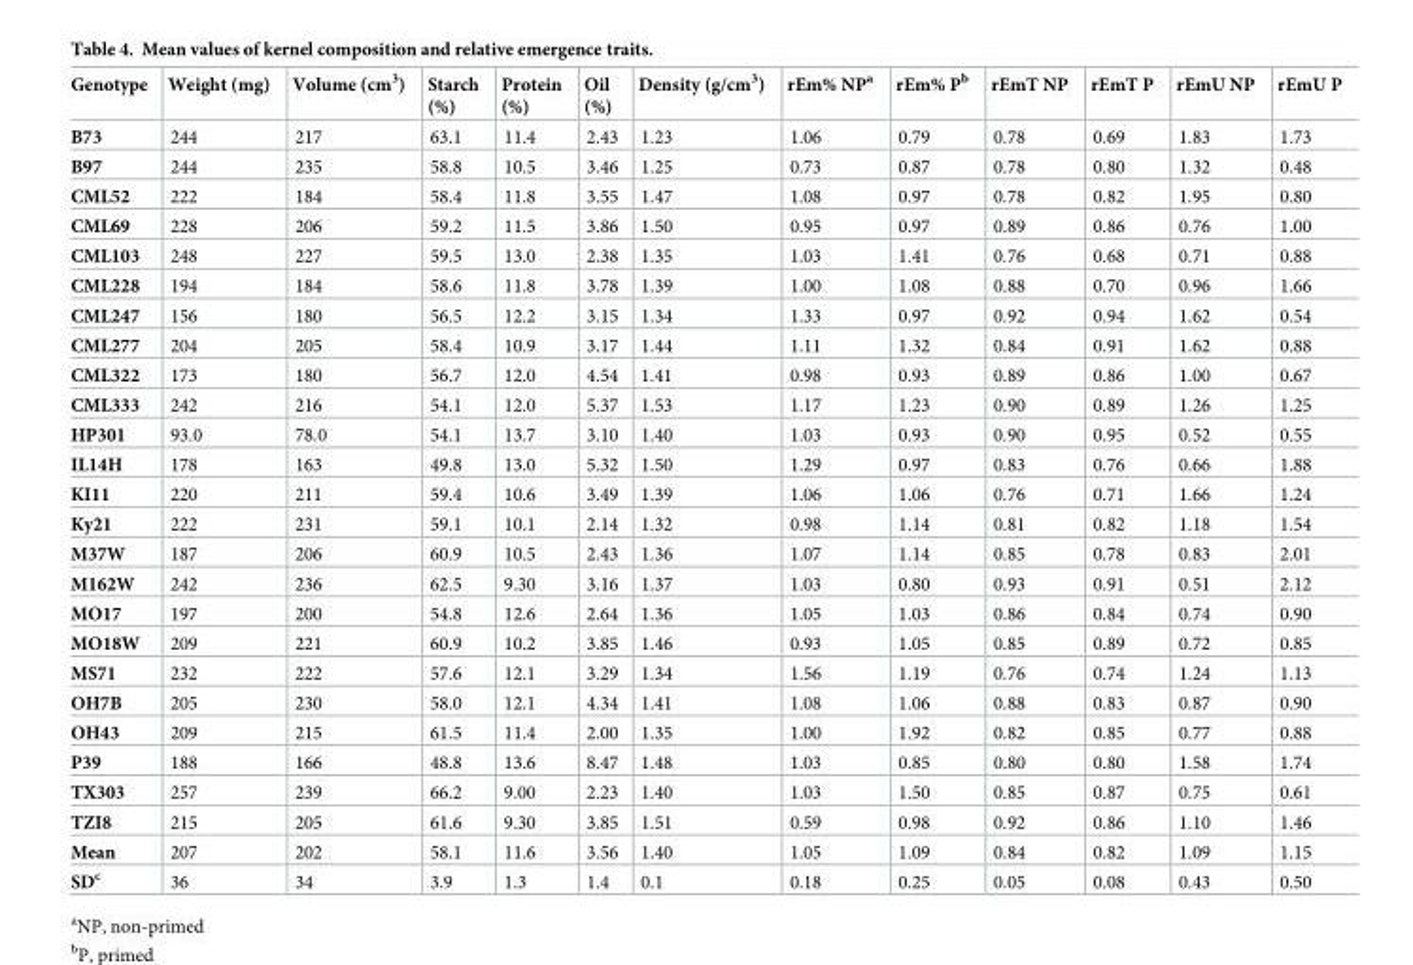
<table><thead><tr><td>Genotype</td><td>Weight (mg)</td><td>Volume (cm<sup>3</sup>)</td><td>Starch (%)</td><td>Protein (%)</td><td>Oil (%)</td><td>Density (g/cm<sup>3</sup>)</td><td>rEm% NP<sup>a</sup></td><td>rEm% P<sup>b</sup></td><td>rEmT NP</td><td>rEmT P</td><td>rEmU NP</td><td>rEmU P</td></tr></thead><tbody><tr><td>B73</td><td>244</td><td>217</td><td>63.1</td><td>11.4</td><td>2.43</td><td>1.23</td><td>1.06</td><td>0.79</td><td>0.78</td><td>0.69</td><td>1.83</td><td>1.73</td></tr><tr><td>B97</td><td>244</td><td>235</td><td>58.8</td><td>10.5</td><td>3.46</td><td>1.25</td><td>0.73</td><td>0.87</td><td>0.78</td><td>0.80</td><td>1.32</td><td>0.48</td></tr><tr><td>CML52</td><td>222</td><td>184</td><td>58.4</td><td>11.8</td><td>3.55</td><td>1.47</td><td>1.08</td><td>0.97</td><td>0.78</td><td>0.82</td><td>1.95</td><td>0.80</td></tr><tr><td>CML69</td><td>228</td><td>206</td><td>59.2</td><td>11.5</td><td>3.86</td><td>1.50</td><td>0.95</td><td>0.97</td><td>0.89</td><td>0.86</td><td>0.76</td><td>1.00</td></tr><tr><td>CML103</td><td>248</td><td>227</td><td>59.5</td><td>13.0</td><td>2.38</td><td>1.35</td><td>1.03</td><td>1.41</td><td>0.76</td><td>0.68</td><td>0.71</td><td>0.88</td></tr><tr><td>CML228</td><td>194</td><td>184</td><td>58.6</td><td>11.8</td><td>3.78</td><td>1.39</td><td>1.00</td><td>1.08</td><td>0.88</td><td>0.70</td><td>0.96</td><td>1.66</td></tr><tr><td>CML247</td><td>156</td><td>180</td><td>56.5</td><td>12.2</td><td>3.15</td><td>1.34</td><td>1.33</td><td>0.97</td><td>0.92</td><td>0.94</td><td>1.62</td><td>0.54</td></tr><tr><td>CML277</td><td>204</td><td>205</td><td>58.4</td><td>10.9</td><td>3.17</td><td>1.44</td><td>1.11</td><td>1.32</td><td>0.84</td><td>0.91</td><td>1.62</td><td>0.88</td></tr><tr><td>CML322</td><td>173</td><td>180</td><td>56.7</td><td>12.0</td><td>4.54</td><td>1.41</td><td>0.98</td><td>0.93</td><td>0.89</td><td>0.86</td><td>1.00</td><td>0.67</td></tr><tr><td>CML333</td><td>242</td><td>216</td><td>54.1</td><td>12.0</td><td>5.37</td><td>1.53</td><td>1.17</td><td>1.23</td><td>0.90</td><td>0.89</td><td>1.26</td><td>1.25</td></tr><tr><td>HP301</td><td>93.0</td><td>78.0</td><td>54.1</td><td>13.7</td><td>3.10</td><td>1.40</td><td>1.03</td><td>0.93</td><td>0.90</td><td>0.95</td><td>0.52</td><td>0.55</td></tr><tr><td>IL14H</td><td>178</td><td>163</td><td>49.8</td><td>13.0</td><td>5.32</td><td>1.50</td><td>1.29</td><td>0.97</td><td>0.83</td><td>0.76</td><td>0.66</td><td>1.88</td></tr><tr><td>KI11</td><td>220</td><td>211</td><td>59.4</td><td>10.6</td><td>3.49</td><td>1.39</td><td>1.06</td><td>1.06</td><td>0.76</td><td>0.71</td><td>1.66</td><td>1.24</td></tr><tr><td>Ky21</td><td>222</td><td>231</td><td>59.1</td><td>10.1</td><td>2.14</td><td>1.32</td><td>0.98</td><td>1.14</td><td>0.81</td><td>0.82</td><td>1.18</td><td>1.54</td></tr><tr><td>M37W</td><td>187</td><td>206</td><td>60.9</td><td>10.5</td><td>2.43</td><td>1.36</td><td>1.07</td><td>1.14</td><td>0.85</td><td>0.78</td><td>0.83</td><td>2.01</td></tr><tr><td>M162W</td><td>242</td><td>236</td><td>62.5</td><td>9.30</td><td>3.16</td><td>1.37</td><td>1.03</td><td>0.80</td><td>0.93</td><td>0.91</td><td>0.51</td><td>2.12</td></tr><tr><td>MO17</td><td>197</td><td>200</td><td>54.8</td><td>12.6</td><td>2.64</td><td>1.36</td><td>1.05</td><td>1.03</td><td>0.86</td><td>0.84</td><td>0.74</td><td>0.90</td></tr><tr><td>MO18W</td><td>209</td><td>221</td><td>60.9</td><td>10.2</td><td>3.85</td><td>1.46</td><td>0.93</td><td>1.05</td><td>0.85</td><td>0.89</td><td>0.72</td><td>0.85</td></tr><tr><td>MS71</td><td>232</td><td>222</td><td>57.6</td><td>12.1</td><td>3.29</td><td>1.34</td><td>1.56</td><td>1.19</td><td>0.76</td><td>0.74</td><td>1.24</td><td>1.13</td></tr><tr><td>OH7B</td><td>205</td><td>230</td><td>58.0</td><td>12.1</td><td>4.34</td><td>1.41</td><td>1.08</td><td>1.06</td><td>0.88</td><td>0.83</td><td>0.87</td><td>0.90</td></tr><tr><td>OH43</td><td>209</td><td>215</td><td>61.5</td><td>11.4</td><td>2.00</td><td>1.35</td><td>1.00</td><td>1.92</td><td>0.82</td><td>0.85</td><td>0.77</td><td>0.88</td></tr><tr><td>P39</td><td>188</td><td>166</td><td>48.8</td><td>13.6</td><td>8.47</td><td>1.48</td><td>1.03</td><td>0.85</td><td>0.80</td><td>0.80</td><td>1.58</td><td>1.74</td></tr><tr><td>TX303</td><td>257</td><td>239</td><td>66.2</td><td>9.00</td><td>2.23</td><td>1.40</td><td>1.03</td><td>1.50</td><td>0.85</td><td>0.87</td><td>0.75</td><td>0.61</td></tr><tr><td>TZI8</td><td>215</td><td>205</td><td>61.6</td><td>9.30</td><td>3.85</td><td>1.51</td><td>0.59</td><td>0.98</td><td>0.92</td><td>0.86</td><td>1.10</td><td>1.46</td></tr><tr><td>Mean</td><td>207</td><td>202</td><td>58.1</td><td>11.6</td><td>3.56</td><td>1.40</td><td>1.05</td><td>1.09</td><td>0.84</td><td>0.82</td><td>1.09</td><td>1.15</td></tr><tr><td>SD<sup>c</sup></td><td>36</td><td>34</td><td>3.9</td><td>1.3</td><td>1.4</td><td>0.1</td><td>0.18</td><td>0.25</td><td>0.05</td><td>0.08</td><td>0.43</td><td>0.50</td></tr></tbody></table>